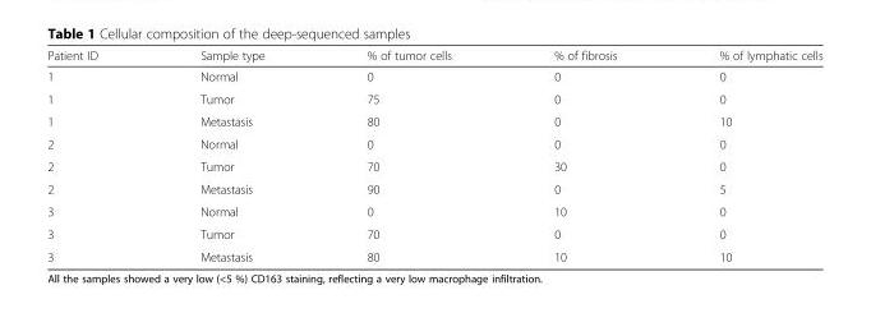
<table><thead><tr><td>Patient ID</td><td>Sample type</td><td>% of tumor cells</td><td>% of fibrosis</td><td>% of lymphatic cells</td></tr></thead><tbody><tr><td>1</td><td>Normal</td><td>0</td><td>0</td><td>0</td></tr><tr><td>1</td><td>Tumor</td><td>75</td><td>0</td><td>0</td></tr><tr><td>1</td><td>Metastasis</td><td>80</td><td>0</td><td>10</td></tr><tr><td>2</td><td>Normal</td><td>0</td><td>0</td><td>0</td></tr><tr><td>2</td><td>Tumor</td><td>70</td><td>30</td><td>0</td></tr><tr><td>2</td><td>Metastasis</td><td>90</td><td>0</td><td>5</td></tr><tr><td>3</td><td>Normal</td><td>0</td><td>10</td><td>0</td></tr><tr><td>3</td><td>Tumor</td><td>70</td><td>0</td><td>0</td></tr><tr><td>3</td><td>Metastasis</td><td>80</td><td>10</td><td>10</td></tr></tbody></table>